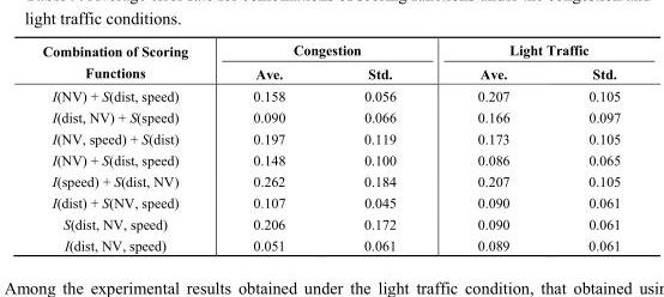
<table><thead><tr><td rowspan="2">Combination of Scoring Functions</td><td colspan="2">Congestion</td><td colspan="2">Light Traffic</td></tr><tr><td>Ave.</td><td>Std.</td><td>Ave.</td><td>Std.</td></tr></thead><tbody><tr><td>I(NV) + S(dist, speed)</td><td>0.158</td><td>0.056</td><td>0.207</td><td>0.105</td></tr><tr><td>I(dist, NV) + S(speed)</td><td>0.090</td><td>0.066</td><td>0.166</td><td>0.097</td></tr><tr><td>I(NV, speed) + S(dist)</td><td>0.197</td><td>0.119</td><td>0.173</td><td>0.105</td></tr><tr><td>I(NV) + S(dist, speed)</td><td>0.148</td><td>0.100</td><td>0.086</td><td>0.065</td></tr><tr><td>I(speed) + S(dist, NV)</td><td>0.262</td><td>0.184</td><td>0.207</td><td>0.105</td></tr><tr><td>I(dist) + S(NV, speed)</td><td>0.107</td><td>0.045</td><td>0.090</td><td>0.061</td></tr><tr><td>S(dist, NV, speed)</td><td>0.206</td><td>0.172</td><td>0.090</td><td>0.061</td></tr><tr><td>I(dist, NV, speed)</td><td>0.051</td><td>0.061</td><td>0.089</td><td>0.061</td></tr></tbody></table>